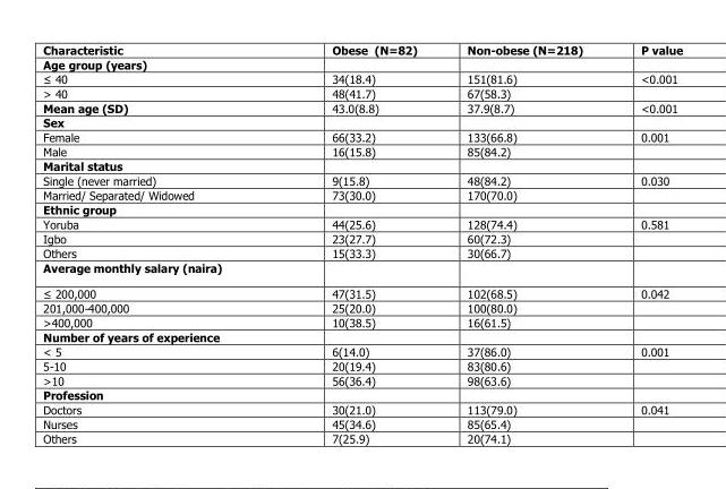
<table><thead><tr><td>Characteristic</td><td>Obese (N=82)</td><td>Non-obese (N=218)</td><td>P value</td></tr></thead><tbody><tr><td colspan="4">Age group (years)</td></tr><tr><td>≤ 40</td><td>34(18.4)</td><td>151(81.6)</td><td>&lt;0.001</td></tr><tr><td>&gt; 40</td><td>48(41.7)</td><td>67(58.3)</td><td></td></tr><tr><td>Mean age (SD)</td><td>43.0(8.8)</td><td>37.9(8.7)</td><td>&lt;0.001</td></tr><tr><td colspan="4">Sex</td></tr><tr><td>Female</td><td>66(33.2)</td><td>133(66.8)</td><td>0.001</td></tr><tr><td>Male</td><td>16(15.8)</td><td>85(84.2)</td><td></td></tr><tr><td colspan="4">Marital status</td></tr><tr><td>Single (never married)</td><td>9(15.8)</td><td>48(84.2)</td><td>0.030</td></tr><tr><td>Married/ Separated/ Widowed</td><td>73(30.0)</td><td>170(70.0)</td><td></td></tr><tr><td colspan="4">Ethnic group</td></tr><tr><td>Yoruba</td><td>44(25.6)</td><td>128(74.4)</td><td>0.581</td></tr><tr><td>Igbo</td><td>23(27.7)</td><td>60(72.3)</td><td></td></tr><tr><td>Others</td><td>15(33.3)</td><td>30(66.7)</td><td></td></tr><tr><td colspan="4">Average monthly salary (naira)</td></tr><tr><td>≤ 200,000</td><td>47(31.5)</td><td>102(68.5)</td><td>0.042</td></tr><tr><td>201,000-400,000</td><td>25(20.0)</td><td>100(80.0)</td><td></td></tr><tr><td>&gt;400,000</td><td>10(38.5)</td><td>16(61.5)</td><td></td></tr><tr><td colspan="4">Number of years of experience</td></tr><tr><td>&lt; 5</td><td>6(14.0)</td><td>37(86.0)</td><td>0.001</td></tr><tr><td>5-10</td><td>20(19.4)</td><td>83(80.6)</td><td></td></tr><tr><td>&gt;10</td><td>56(36.4)</td><td>98(63.6)</td><td></td></tr><tr><td colspan="4">Profession</td></tr><tr><td>Doctors</td><td>30(21.0)</td><td>113(79.0)</td><td>0.041</td></tr><tr><td>Nurses</td><td>45(34.6)</td><td>85(65.4)</td><td></td></tr><tr><td>Others</td><td>7(25.9)</td><td>20(74.1)</td><td></td></tr></tbody></table>